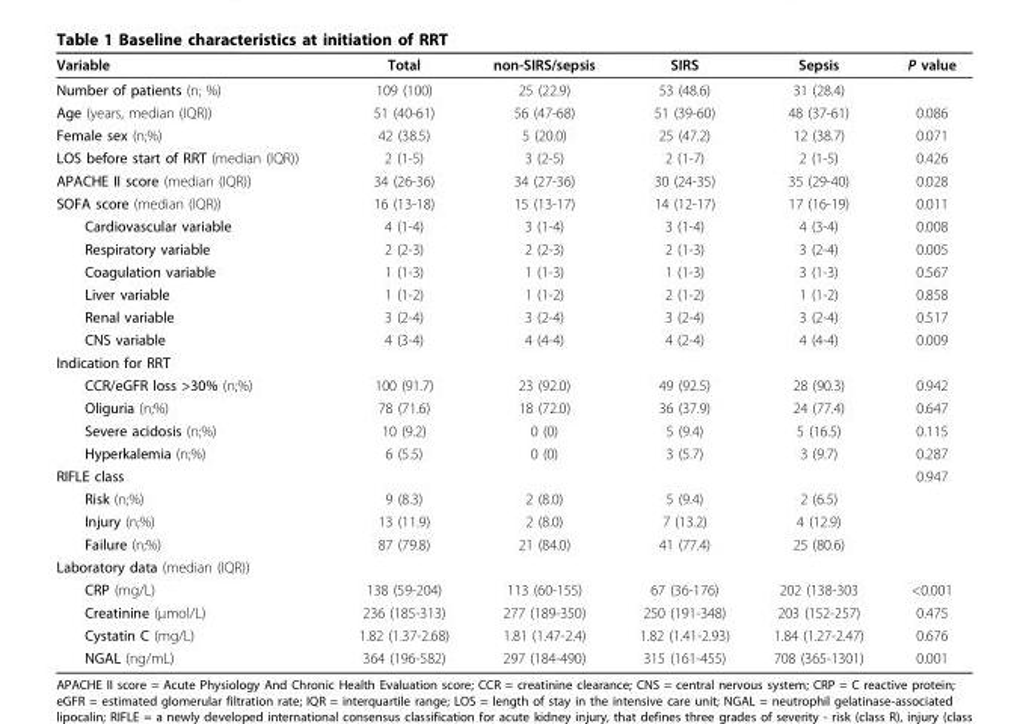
<table><thead><tr><td>Variable</td><td>Total</td><td>non-SIRS/sepsis</td><td>SIRS</td><td>Sepsis</td><td>P value</td></tr></thead><tbody><tr><td>Number of patients (n; %)</td><td>109 (100)</td><td>25 (22.9)</td><td>53 (48.6)</td><td>31 (28.4)</td><td></td></tr><tr><td>Age (years, median (IQR))</td><td>51 (40-61)</td><td>56 (47-68)</td><td>51 (39-60)</td><td>48 (37-61)</td><td>0.086</td></tr><tr><td>Female sex (n;%)</td><td>42 (38.5)</td><td>5 (20.0)</td><td>25 (47.2)</td><td>12 (38.7)</td><td>0.071</td></tr><tr><td>LOS before start of RRT (median (IQR))</td><td>2 (1-5)</td><td>3 (2-5)</td><td>2 (1-7)</td><td>2 (1-5)</td><td>0.426</td></tr><tr><td>APACHE II score (median (IQR))</td><td>34 (26-36)</td><td>34 (27-36)</td><td>30 (24-35)</td><td>35 (29-40)</td><td>0.028</td></tr><tr><td>SOFA score (median (IQR))</td><td>16 (13-18)</td><td>15 (13-17)</td><td>14 (12-17)</td><td>17 (16-19)</td><td>0.011</td></tr><tr><td>Cardiovascular variable</td><td>4 (1-4)</td><td>3 (1-4)</td><td>3 (1-4)</td><td>4 (3-4)</td><td>0.008</td></tr><tr><td>Respiratory variable</td><td>2 (2-3)</td><td>2 (2-3)</td><td>2 (1-3)</td><td>3 (2-4)</td><td>0.005</td></tr><tr><td>Coagulation variable</td><td>1 (1-3)</td><td>1 (1-3)</td><td>1 (1-3)</td><td>3 (1-3)</td><td>0.567</td></tr><tr><td>Liver variable</td><td>1 (1-2)</td><td>1 (1-2)</td><td>2 (1-2)</td><td>1 (1-2)</td><td>0.858</td></tr><tr><td>Renal variable</td><td>3 (2-4)</td><td>3 (2-4)</td><td>3 (2-4)</td><td>3 (2-4)</td><td>0.517</td></tr><tr><td>CNS variable</td><td>4 (3-4)</td><td>4 (4-4)</td><td>4 (2-4)</td><td>4 (4-4)</td><td>0.009</td></tr><tr><td colspan="6">Indication for RRT</td></tr><tr><td>CCR/eGFR loss &gt;30% (n;%)</td><td>100 (91.7)</td><td>23 (92.0)</td><td>49 (92.5)</td><td>28 (90.3)</td><td>0.942</td></tr><tr><td>Oliguria (n;%)</td><td>78 (71.6)</td><td>18 (72.0)</td><td>36 (37.9)</td><td>24 (77.4)</td><td>0.647</td></tr><tr><td>Severe acidosis (n;%)</td><td>10 (9.2)</td><td>0 (0)</td><td>5 (9.4)</td><td>5 (16.5)</td><td>0.115</td></tr><tr><td>Hyperkalemia (n;%)</td><td>6 (5.5)</td><td>0 (0)</td><td>3 (5.7)</td><td>3 (9.7)</td><td>0.287</td></tr><tr><td>RIFLE class</td><td></td><td></td><td></td><td></td><td>0.947</td></tr><tr><td>Risk (n;%)</td><td>9 (8.3)</td><td>2 (8.0)</td><td>5 (9.4)</td><td>2 (6.5)</td><td></td></tr><tr><td>Injury (n;%)</td><td>13 (11.9)</td><td>2 (8.0)</td><td>7 (13.2)</td><td>4 (12.9)</td><td></td></tr><tr><td>Failure (n;%)</td><td>87 (79.8)</td><td>21 (84.0)</td><td>41 (77.4)</td><td>25 (80.6)</td><td></td></tr><tr><td colspan="6">Laboratory data (median (IQR))</td></tr><tr><td>CRP (mg/L)</td><td>138 (59-204)</td><td>113 (60-155)</td><td>67 (36-176)</td><td>202 (138-303</td><td>&lt;0.001</td></tr><tr><td>Creatinine (μmol/L)</td><td>236 (185-313)</td><td>277 (189-350)</td><td>250 (191-348)</td><td>203 (152-257)</td><td>0.475</td></tr><tr><td>Cystatin C (mg/L)</td><td>1.82 (1.37-2.68)</td><td>1.81 (1.47-2.4)</td><td>1.82 (1.41-2.93)</td><td>1.84 (1.27-2.47)</td><td>0.676</td></tr><tr><td>NGAL (ng/mL)</td><td>364 (196-582)</td><td>297 (184-490)</td><td>315 (161-455)</td><td>708 (365-1301)</td><td>0.001</td></tr></tbody></table>